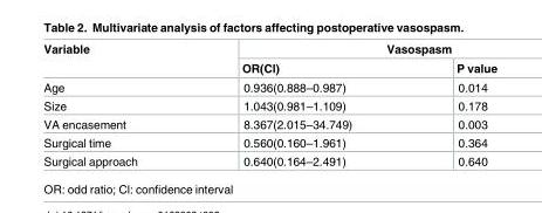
<table><thead><tr><td rowspan="2">Variable</td><td colspan="2">Vasospasm</td></tr><tr><td>OR(Cl)</td><td>P value</td></tr></thead><tbody><tr><td>Age</td><td>0.936(0.888–0.987)</td><td>0.014</td></tr><tr><td>Size</td><td>1.043(0.981–1.109)</td><td>0.178</td></tr><tr><td>VA encasement</td><td>8.367(2.015–34.749)</td><td>0.003</td></tr><tr><td>Surgical time</td><td>0.560(0.160–1.961)</td><td>0.364</td></tr><tr><td>Surgical approach</td><td>0.640(0.164–2.491)</td><td>0.640</td></tr></tbody></table>